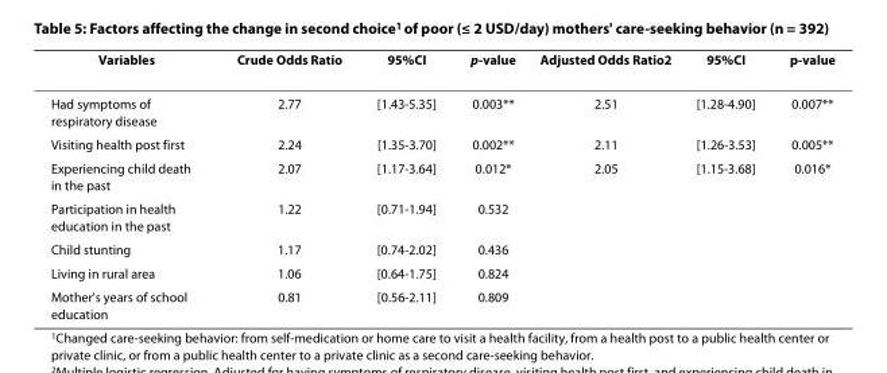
<table><thead><tr><td>Variables</td><td>Crude Odds Ratio</td><td>95%CI</td><td>p-value</td><td>Adjusted Odds Ratio<sup>2</sup></td><td>95%CI</td><td>p-value</td></tr></thead><tbody><tr><td>Had symptoms of respiratory disease</td><td>2.77</td><td>[1.43-5.35]</td><td>0.003**</td><td>2.51</td><td>[1.28-4.90]</td><td>0.007**</td></tr><tr><td>Visiting health post first</td><td>2.24</td><td>[1.35-3.70]</td><td>0.002**</td><td>2.11</td><td>[1.26-3.53]</td><td>0.005**</td></tr><tr><td>Experiencing child death in the past</td><td>2.07</td><td>[1.17-3.64]</td><td>0.012*</td><td>2.05</td><td>[1.15-3.68]</td><td>0.016*</td></tr><tr><td>Participation in health education in the past</td><td>1.22</td><td>[0.71-1.94]</td><td>0.532</td><td></td><td></td><td></td></tr><tr><td>Child stunting</td><td>1.17</td><td>[0.74-2.02]</td><td>0.436</td><td></td><td></td><td></td></tr><tr><td>Living in rural area</td><td>1.06</td><td>[0.64-1.75]</td><td>0.824</td><td></td><td></td><td></td></tr><tr><td>Mother&#x27;s years of school education</td><td>0.81</td><td>[0.56-2.11]</td><td>0.809</td><td></td><td></td><td></td></tr></tbody></table>